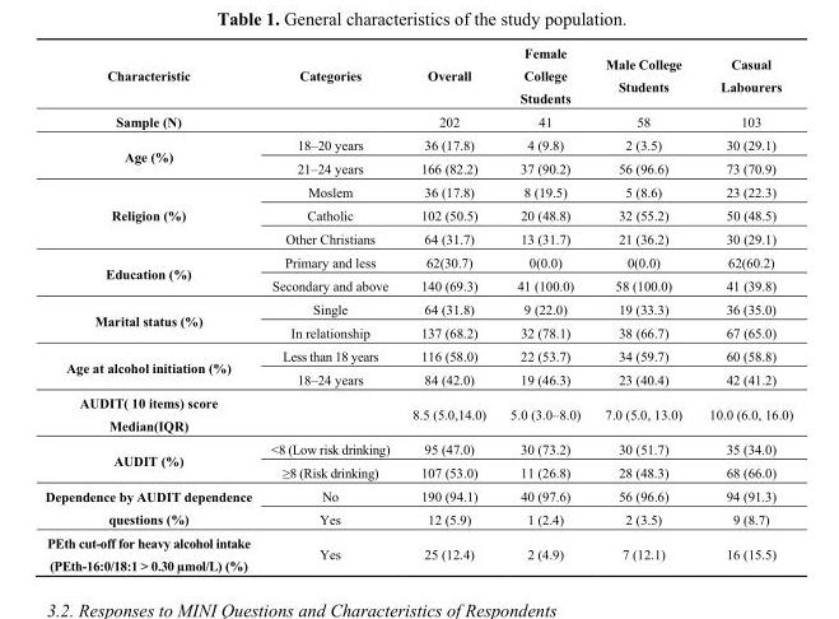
<table><thead><tr><td>Characteristic</td><td>Categories</td><td>Overall</td><td>Female College Students</td><td>Male College Students</td><td>Casual Labourers</td></tr></thead><tbody><tr><td>Sample (N)</td><td></td><td>202</td><td>41</td><td>58</td><td>103</td></tr><tr><td rowspan="2">Age (%)</td><td>18–20 years</td><td>36 (17.8)</td><td>4 (9.8)</td><td>2 (3.5)</td><td>30 (29.1)</td></tr><tr><td>21–24 years</td><td>166 (82.2)</td><td>37 (90.2)</td><td>56 (96.6)</td><td>73 (70.9)</td></tr><tr><td rowspan="3">Religion (%)</td><td>Moslem</td><td>36 (17.8)</td><td>8 (19.5)</td><td>5 (8.6)</td><td>23 (22.3)</td></tr><tr><td>Catholic</td><td>102 (50.5)</td><td>20 (48.8)</td><td>32 (55.2)</td><td>50 (48.5)</td></tr><tr><td>Other Christians</td><td>64 (31.7)</td><td>13 (31.7)</td><td>21 (36.2)</td><td>30 (29.1)</td></tr><tr><td rowspan="2">Education (%)</td><td>Primary and less</td><td>62(30.7)</td><td>0(0.0)</td><td>0(0.0)</td><td>62(60.2)</td></tr><tr><td>Secondary and above</td><td>140 (69.3)</td><td>41 (100.0)</td><td>58 (100.0)</td><td>41 (39.8)</td></tr><tr><td rowspan="2">Marital status (%)</td><td>Single</td><td>64 (31.8)</td><td>9 (22.0)</td><td>19 (33.3)</td><td>36 (35.0)</td></tr><tr><td>In relationship</td><td>137 (68.2)</td><td>32 (78.1)</td><td>38 (66.7)</td><td>67 (65.0)</td></tr><tr><td rowspan="2">Age at alcohol initiation (%)</td><td>Less than 18 years</td><td>116 (58.0)</td><td>22 (53.7)</td><td>34 (59.7)</td><td>60 (58.8)</td></tr><tr><td>18–24 years</td><td>84 (42.0)</td><td>19 (46.3)</td><td>23 (40.4)</td><td>42 (41.2)</td></tr><tr><td>AUDIT( 10 items) score Median(IQR)</td><td></td><td>8.5 (5.0,14.0)</td><td>5.0 (3.0–8.0)</td><td>7.0 (5.0, 13.0)</td><td>10.0 (6.0, 16.0)</td></tr><tr><td rowspan="2">AUDIT (%)</td><td>&lt;8 (Low risk drinking)</td><td>95 (47.0)</td><td>30 (73.2)</td><td>30 (51.7)</td><td>35 (34.0)</td></tr><tr><td>≥8 (Risk drinking)</td><td>107 (53.0)</td><td>11 (26.8)</td><td>28 (48.3)</td><td>68 (66.0)</td></tr><tr><td rowspan="2">Dependence by AUDIT dependence questions (%)</td><td>No</td><td>190 (94.1)</td><td>40 (97.6)</td><td>56 (96.6)</td><td>94 (91.3)</td></tr><tr><td>Yes</td><td>12 (5.9)</td><td>1 (2.4)</td><td>2 (3.5)</td><td>9 (8.7)</td></tr><tr><td>PEth cut-off for heavy alcohol intake (PEth-16:0/18:1 &gt; 0.30 µmol/L) (%)</td><td>Yes</td><td>25 (12.4)</td><td>2 (4.9)</td><td>7 (12.1)</td><td>16 (15.5)</td></tr></tbody></table>